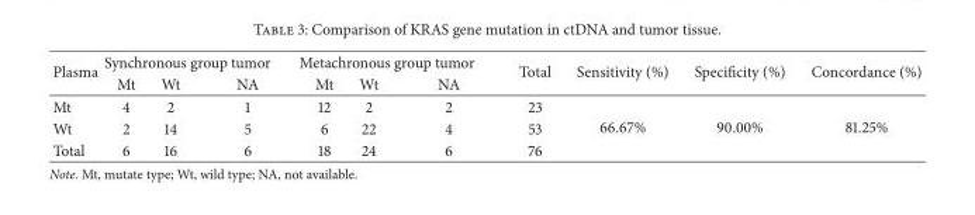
<table><thead><tr><td rowspan="2">Plasma</td><td colspan="3">Synchronous group tumor</td><td colspan="3">Metachronous group tumor</td><td rowspan="2">Total</td><td rowspan="2">Sensitivity (%)</td><td rowspan="2">Specificity (%)</td><td rowspan="2">Concordance (%)</td></tr><tr><td>Mt</td><td>Wt</td><td>NA</td><td>Mt</td><td>Wt</td><td>NA</td></tr></thead><tbody><tr><td>Mt</td><td>4</td><td>2</td><td>1</td><td>12</td><td>2</td><td>2</td><td>23</td><td rowspan="3">66.67%</td><td rowspan="3">90.00%</td><td rowspan="3">81.25%</td></tr><tr><td>Wt</td><td>2</td><td>14</td><td>5</td><td>6</td><td>22</td><td>4</td><td>53</td></tr><tr><td>Total</td><td>6</td><td>16</td><td>6</td><td>18</td><td>24</td><td>6</td><td>76</td></tr></tbody></table>